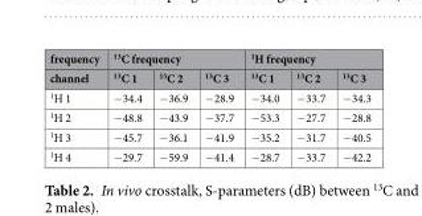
<table><thead><tr><td rowspan="2">frequency channel</td><td colspan="3"><sup>13</sup>C frequency</td><td colspan="3"><sup>1</sup>H frequency</td></tr><tr><td><sup>13</sup>C 1</td><td><sup>13</sup>C 2</td><td><sup>13</sup>C 3</td><td><sup>13</sup>C 1</td><td><sup>13</sup>C 2</td><td><sup>13</sup>C 3</td></tr></thead><tbody><tr><td><sup>1</sup>H 1</td><td>−34.4</td><td>−36.9</td><td>−28.9</td><td>−34.0</td><td>−33.7</td><td>−34.3</td></tr><tr><td><sup>1</sup>H 2</td><td>−48.8</td><td>−43.9</td><td>−37.7</td><td>−53.3</td><td>−27.7</td><td>−28.8</td></tr><tr><td><sup>1</sup>H 3</td><td>−45.7</td><td>−36.1</td><td>−41.9</td><td>−35.2</td><td>−31.7</td><td>−40.5</td></tr><tr><td><sup>1</sup>H 4</td><td>−29.7</td><td>−59.9</td><td>−41.4</td><td>−28.7</td><td>−33.7</td><td>−42.2</td></tr></tbody></table>